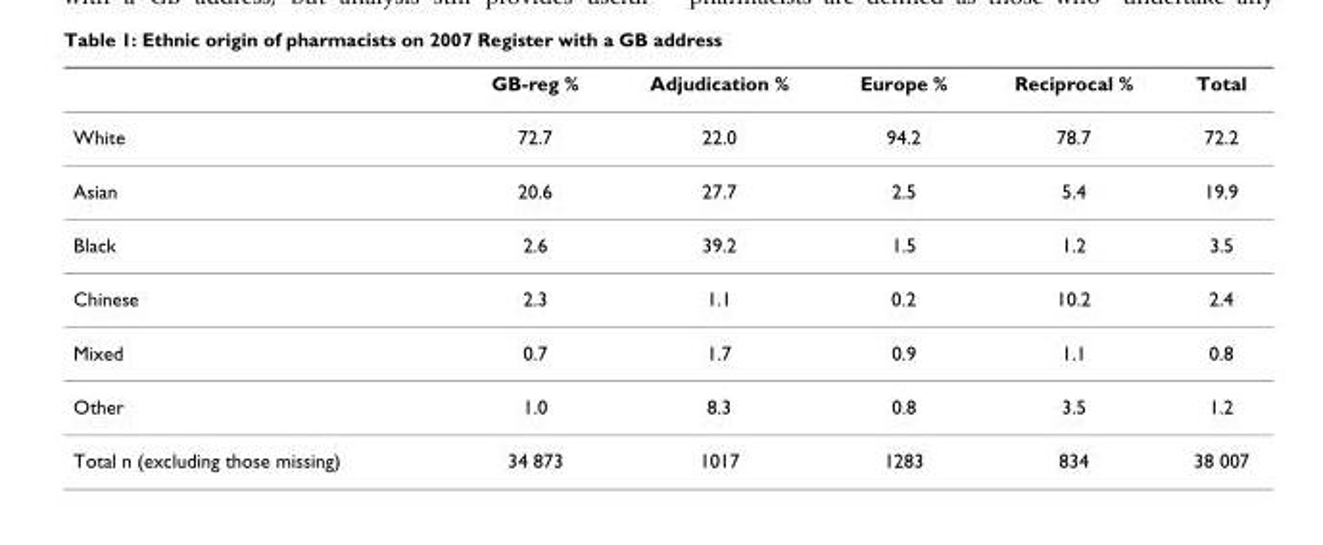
<table><thead><tr><td></td><td>GB-reg %</td><td>Adjudication %</td><td>Europe %</td><td>Reciprocal %</td><td>Total</td></tr></thead><tbody><tr><td>White</td><td>72.7</td><td>22.0</td><td>94.2</td><td>78.7</td><td>72.2</td></tr><tr><td>Asian</td><td>20.6</td><td>27.7</td><td>2.5</td><td>5.4</td><td>19.9</td></tr><tr><td>Black</td><td>2.6</td><td>39.2</td><td>1.5</td><td>1.2</td><td>3.5</td></tr><tr><td>Chinese</td><td>2.3</td><td>1.1</td><td>0.2</td><td>10.2</td><td>2.4</td></tr><tr><td>Mixed</td><td>0.7</td><td>1.7</td><td>0.9</td><td>1.1</td><td>0.8</td></tr><tr><td>Other</td><td>1.0</td><td>8.3</td><td>0.8</td><td>3.5</td><td>1.2</td></tr><tr><td>Total n (excluding those missing)</td><td>34 873</td><td>1017</td><td>1283</td><td>834</td><td>38 007</td></tr></tbody></table>